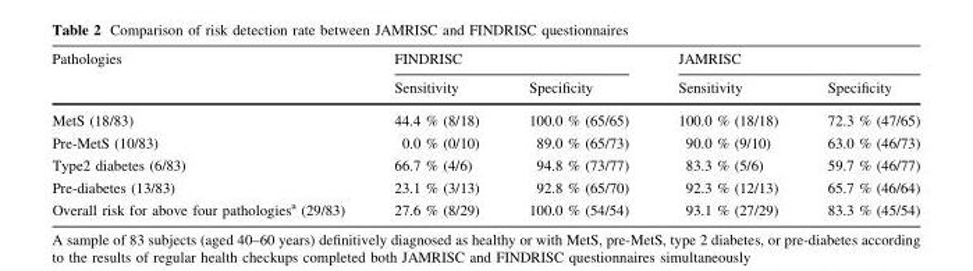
<table><thead><tr><td rowspan="2">Pathologies</td><td colspan="2">FINDRISC</td><td colspan="2">JAMRISC</td></tr><tr><td>Sensitivity</td><td>Specificity</td><td>Sensitivity</td><td>Specificity</td></tr></thead><tbody><tr><td>MetS (18/83)</td><td>44.4 % (8/18)</td><td>100.0 % (65/65)</td><td>100.0 % (18/18)</td><td>72.3 % (47/65)</td></tr><tr><td>Pre-MetS (10/83)</td><td>0.0 % (0/10)</td><td>89.0 % (65/73)</td><td>90.0 % (9/10)</td><td>63.0 % (46/73)</td></tr><tr><td>Type2 diabetes (6/83)</td><td>66.7 % (4/6)</td><td>94.8 % (73/77)</td><td>83.3 % (5/6)</td><td>59.7 % (46/77)</td></tr><tr><td>Pre-diabetes (13/83)</td><td>23.1 % (3/13)</td><td>92.8 % (65/70)</td><td>92.3 % (12/13)</td><td>65.7 % (46/64)</td></tr><tr><td>Overall risk for above four pathologies<sup>a</sup> (29/83)</td><td>27.6 % (8/29)</td><td>100.0 % (54/54)</td><td>93.1 % (27/29)</td><td>83.3 % (45/54)</td></tr></tbody></table>